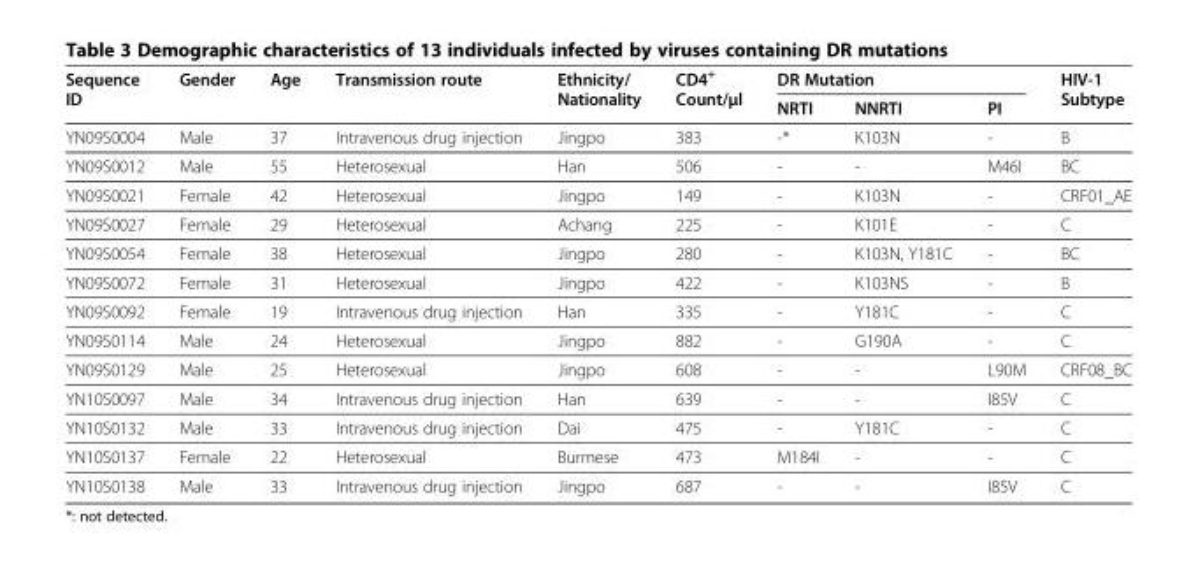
<table><thead><tr><td rowspan="2">Sequence ID</td><td rowspan="2">Gender</td><td rowspan="2">Age</td><td rowspan="2">Transmission route</td><td rowspan="2">Ethnicity/ Nationality</td><td rowspan="2">CD4<sup>+</sup> Count/μl</td><td colspan="3">DR Mutation</td><td rowspan="2">HIV-1 Subtype</td></tr><tr><td>NRTI</td><td>NNRTI</td><td>PI</td></tr></thead><tbody><tr><td>YN09S0004</td><td>Male</td><td>37</td><td>Intravenous drug injection</td><td>Jingpo</td><td>383</td><td>-*</td><td>K103N</td><td>-</td><td>B</td></tr><tr><td>YN09S0012</td><td>Male</td><td>55</td><td>Heterosexual</td><td>Han</td><td>506</td><td>-</td><td>-</td><td>M46I</td><td>BC</td></tr><tr><td>YN09S0021</td><td>Female</td><td>42</td><td>Heterosexual</td><td>Jingpo</td><td>149</td><td>-</td><td>K103N</td><td>-</td><td>CRF01_AE</td></tr><tr><td>YN09S0027</td><td>Female</td><td>29</td><td>Heterosexual</td><td>Achang</td><td>225</td><td>-</td><td>K101E</td><td>-</td><td>C</td></tr><tr><td>YN09S0054</td><td>Female</td><td>38</td><td>Heterosexual</td><td>Jingpo</td><td>280</td><td>-</td><td>K103N, Y181C</td><td>-</td><td>BC</td></tr><tr><td>YN09S0072</td><td>Female</td><td>31</td><td>Heterosexual</td><td>Jingpo</td><td>422</td><td>-</td><td>K103NS</td><td>-</td><td>B</td></tr><tr><td>YN09S0092</td><td>Female</td><td>19</td><td>Intravenous drug injection</td><td>Han</td><td>335</td><td>-</td><td>Y181C</td><td>-</td><td>C</td></tr><tr><td>YN09S0114</td><td>Male</td><td>24</td><td>Heterosexual</td><td>Jingpo</td><td>882</td><td>-</td><td>G190A</td><td>-</td><td>C</td></tr><tr><td>YN09S0129</td><td>Male</td><td>25</td><td>Heterosexual</td><td>Jingpo</td><td>608</td><td>-</td><td>-</td><td>L90M</td><td>CRF08_BC</td></tr><tr><td>YN10S0097</td><td>Male</td><td>34</td><td>Intravenous drug injection</td><td>Han</td><td>639</td><td>-</td><td>-</td><td>I85V</td><td>C</td></tr><tr><td>YN10S0132</td><td>Male</td><td>33</td><td>Intravenous drug injection</td><td>Dai</td><td>475</td><td>-</td><td>Y181C</td><td>-</td><td>C</td></tr><tr><td>YN10S0137</td><td>Female</td><td>22</td><td>Heterosexual</td><td>Burmese</td><td>473</td><td>M184I</td><td>-</td><td>-</td><td>C</td></tr><tr><td>YN10S0138</td><td>Male</td><td>33</td><td>Intravenous drug injection</td><td>Jingpo</td><td>687</td><td>-</td><td>-</td><td>I85V</td><td>C</td></tr></tbody></table>